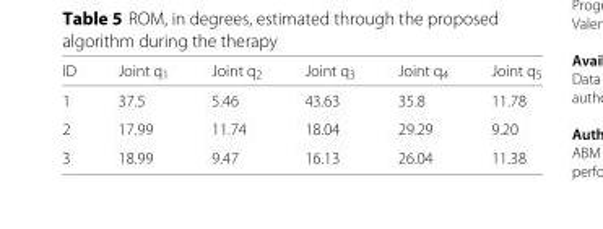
<table><thead><tr><td>ID</td><td>Joint q<sub>1</sub></td><td>Joint q<sub>2</sub></td><td>Joint q<sub>3</sub></td><td>Joint q<sub>4</sub></td><td>Joint q<sub>5</sub></td></tr></thead><tbody><tr><td>1</td><td>37.5</td><td>5.46</td><td>43.63</td><td>35.8</td><td>11.78</td></tr><tr><td>2</td><td>17.99</td><td>11.74</td><td>18.04</td><td>29.29</td><td>9.20</td></tr><tr><td>3</td><td>18.99</td><td>9.47</td><td>16.13</td><td>26.04</td><td>11.38</td></tr></tbody></table>